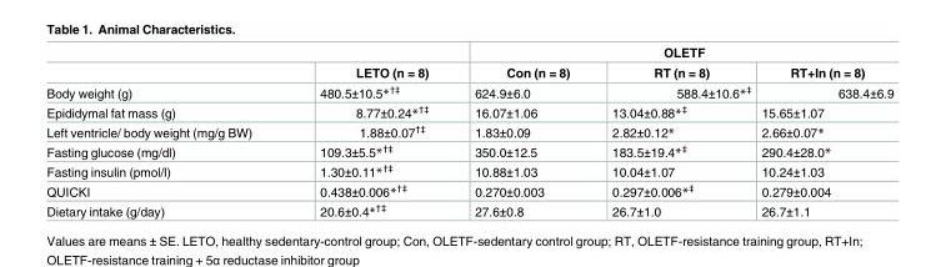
<table><thead><tr><td rowspan="2"></td><td rowspan="2">LETO (n = 8)</td><td colspan="3">OLETF</td></tr><tr><td>Con (n = 8)</td><td>RT (n = 8)</td><td>RT+In (n = 8)</td></tr></thead><tbody><tr><td>Body weight (g)</td><td>480.5±10.5*<sup>†‡</sup></td><td>624.9±6.0</td><td>588.4±10.6*<sup>‡</sup></td><td>638.4±6.9</td></tr><tr><td>Epididymal fat mass (g)</td><td>8.77±0.24*<sup>†‡</sup></td><td>16.07±1.06</td><td>13.04±0.88*<sup>‡</sup></td><td>15.65±1.07</td></tr><tr><td>Left ventricle/ body weight (mg/g BW)</td><td>1.88±0.07<sup>†‡</sup></td><td>1.83±0.09</td><td>2.82±0.12*</td><td>2.66±0.07*</td></tr><tr><td>Fasting glucose (mg/dl)</td><td>109.3±5.5*<sup>†‡</sup></td><td>350.0±12.5</td><td>183.5±19.4*<sup>‡</sup></td><td>290.4±28.0*</td></tr><tr><td>Fasting insulin (pmol/l)</td><td>1.30±0.11*<sup>†‡</sup></td><td>10.88±1.03</td><td>10.04±1.07</td><td>10.24±1.03</td></tr><tr><td>QUICKI</td><td>0.438±0.006*<sup>†‡</sup></td><td>0.270±0.003</td><td>0.297±0.006*<sup>‡</sup></td><td>0.279±0.004</td></tr><tr><td>Dietary intake (g/day)</td><td>20.6±0.4*<sup>†‡</sup></td><td>27.6±0.8</td><td>26.7±1.0</td><td>26.7±1.1</td></tr></tbody></table>